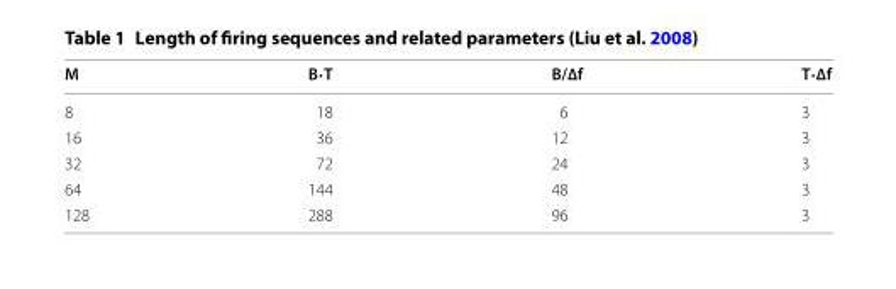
<table><thead><tr><td>M</td><td>B·T</td><td>B/∆f</td><td>T·∆f</td></tr></thead><tbody><tr><td>8</td><td>18</td><td>6</td><td>3</td></tr><tr><td>16</td><td>36</td><td>12</td><td>3</td></tr><tr><td>32</td><td>72</td><td>24</td><td>3</td></tr><tr><td>64</td><td>144</td><td>48</td><td>3</td></tr><tr><td>128</td><td>288</td><td>96</td><td>3</td></tr></tbody></table>